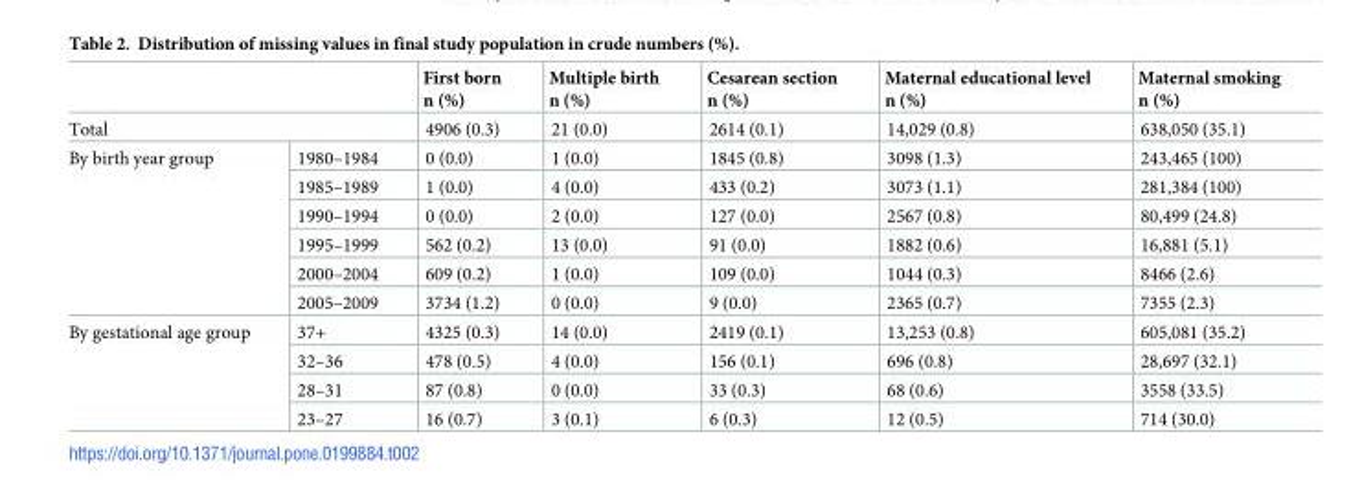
<table><thead><tr><td></td><td></td><td>First born n (%)</td><td>Multiple birth n (%)</td><td>Cesarean section n (%)</td><td>Maternal educational level n (%)</td><td>Maternal smoking n (%)</td></tr></thead><tbody><tr><td colspan="2">Total</td><td>4906 (0.3)</td><td>21 (0.0)</td><td>2614 (0.1)</td><td>14,029 (0.8)</td><td>638,050 (35.1)</td></tr><tr><td rowspan="6">By birth year group</td><td>1980–1984</td><td>0 (0.0)</td><td>1 (0.0)</td><td>1845 (0.8)</td><td>3098 (1.3)</td><td>243,465 (100)</td></tr><tr><td>1985–1989</td><td>1 (0.0)</td><td>4 (0.0)</td><td>433 (0.2)</td><td>3073 (1.1)</td><td>281,384 (100)</td></tr><tr><td>1990–1994</td><td>0 (0.0)</td><td>2 (0.0)</td><td>127 (0.0)</td><td>2567 (0.8)</td><td>80,499 (24.8)</td></tr><tr><td>1995–1999</td><td>562 (0.2)</td><td>13 (0.0)</td><td>91 (0.0)</td><td>1882 (0.6)</td><td>16,881 (5.1)</td></tr><tr><td>2000–2004</td><td>609 (0.2)</td><td>1 (0.0)</td><td>109 (0.0)</td><td>1044 (0.3)</td><td>8466 (2.6)</td></tr><tr><td>2005–2009</td><td>3734 (1.2)</td><td>0 (0.0)</td><td>9 (0.0)</td><td>2365 (0.7)</td><td>7355 (2.3)</td></tr><tr><td rowspan="4">By gestational age group</td><td>37+</td><td>4325 (0.3)</td><td>14 (0.0)</td><td>2419 (0.1)</td><td>13,253 (0.8)</td><td>605,081 (35.2)</td></tr><tr><td>32–36</td><td>478 (0.5)</td><td>4 (0.0)</td><td>156 (0.1)</td><td>696 (0.8)</td><td>28,697 (32.1)</td></tr><tr><td>28–31</td><td>87 (0.8)</td><td>0 (0.0)</td><td>33 (0.3)</td><td>68 (0.6)</td><td>3558 (33.5)</td></tr><tr><td>23–27</td><td>16 (0.7)</td><td>3 (0.1)</td><td>6 (0.3)</td><td>12 (0.5)</td><td>714 (30.0)</td></tr></tbody></table>